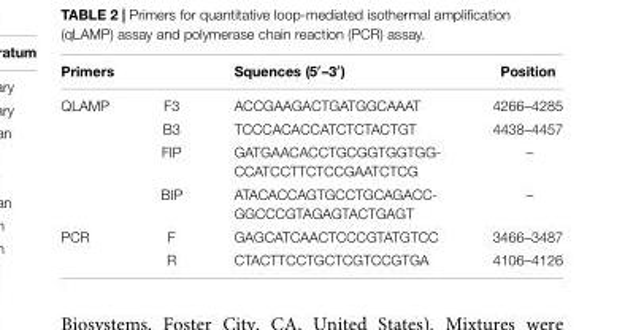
<table><thead><tr><td colspan="2">Primers</td><td rowspan="2">Squences (5′–3′) ACCGAAGACTGATGGCAAAT</td><td rowspan="2">Position 4266–4285</td></tr><tr><td>QLAMP</td><td>F3</td></tr></thead><tbody><tr><td></td><td>B3</td><td>TCCCACACCATCTCTACTGT</td><td>4438–4457</td></tr><tr><td></td><td>FIP</td><td>GATGAACACCTGCGGTGGTGG- CCATCCTTCTCCGAATCTCG</td><td>–</td></tr><tr><td></td><td>BIP</td><td>ATACACCAGTGCCTGCAGACC- GGCCCGTAGAGTACTGAGT</td><td>–</td></tr><tr><td rowspan="2">PCR</td><td>F</td><td>GAGCATCAACTCCCGTATGTCC</td><td>3466–3487</td></tr><tr><td>R</td><td>CTACTTCCTGCTCGTCCGTGA</td><td>4106–4126</td></tr></tbody></table>